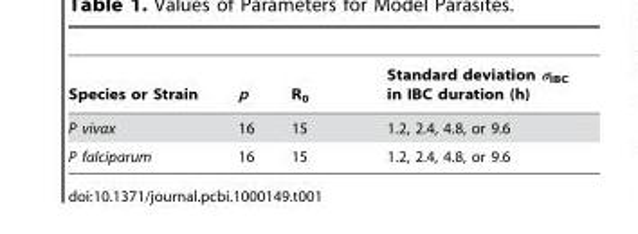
<table><thead><tr><td>Species or Strain</td><td>p</td><td>R<sub>0</sub></td><td>Standard deviation σ<sub>IBC</sub> in IBC duration (h)</td></tr></thead><tbody><tr><td>P vivax</td><td>16</td><td>15</td><td>1.2, 2.4, 4.8, or 9.6</td></tr><tr><td>P falciparum</td><td>16</td><td>15</td><td>1.2, 2.4, 4.8, or 9.6</td></tr></tbody></table>